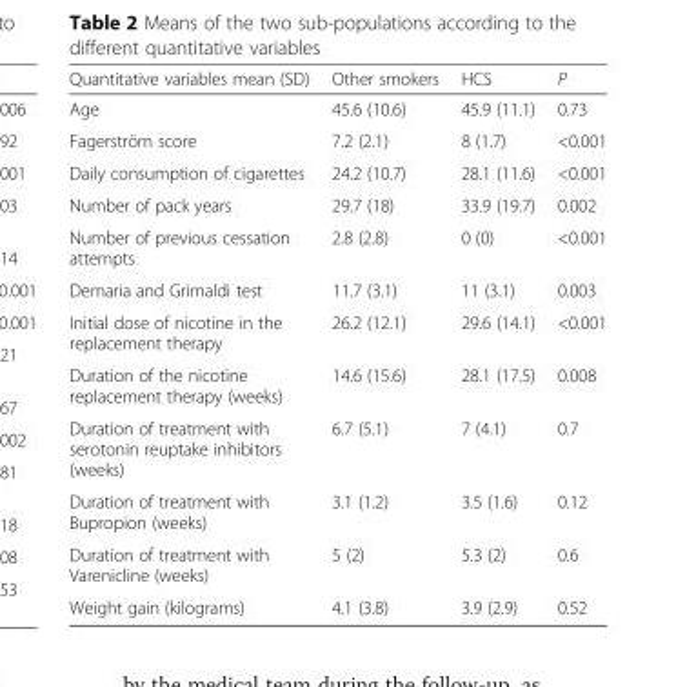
<table><thead><tr><td>Quantitative variables mean (SD)</td><td>Other smokers</td><td>HCS</td><td>P</td></tr></thead><tbody><tr><td>Age</td><td>45.6 (10.6)</td><td>45.9 (11.1)</td><td>0.73</td></tr><tr><td>Fagerström score</td><td>7.2 (2.1)</td><td>8 (1.7)</td><td>&lt;0.001</td></tr><tr><td>Daily consumption of cigarettes</td><td>24.2 (10.7)</td><td>28.1 (11.6)</td><td>&lt;0.001</td></tr><tr><td>Number of pack years</td><td>29.7 (18)</td><td>33.9 (19.7)</td><td>0.002</td></tr><tr><td>Number of previous cessation attempts</td><td>2.8 (2.8)</td><td>0 (0)</td><td>&lt;0.001</td></tr><tr><td>Demaria and Grimaldi test</td><td>11.7 (3.1)</td><td>11 (3.1)</td><td>0.003</td></tr><tr><td>Initial dose of nicotine in the replacement therapy</td><td>26.2 (12.1)</td><td>29.6 (14.1)</td><td>&lt;0.001</td></tr><tr><td>Duration of the nicotine replacement therapy (weeks)</td><td>14.6 (15.6)</td><td>28.1 (17.5)</td><td>0.008</td></tr><tr><td>Duration of treatment with serotonin reuptake inhibitors (weeks)</td><td>6.7 (5.1)</td><td>7 (4.1)</td><td>0.7</td></tr><tr><td>Duration of treatment with Bupropion (weeks)</td><td>3.1 (1.2)</td><td>3.5 (1.6)</td><td>0.12</td></tr><tr><td>Duration of treatment with Varenicline (weeks)</td><td>5 (2)</td><td>5.3 (2)</td><td>0.6</td></tr><tr><td>Weight gain (kilograms)</td><td>4.1 (3.8)</td><td>3.9 (2.9)</td><td>0.52</td></tr></tbody></table>